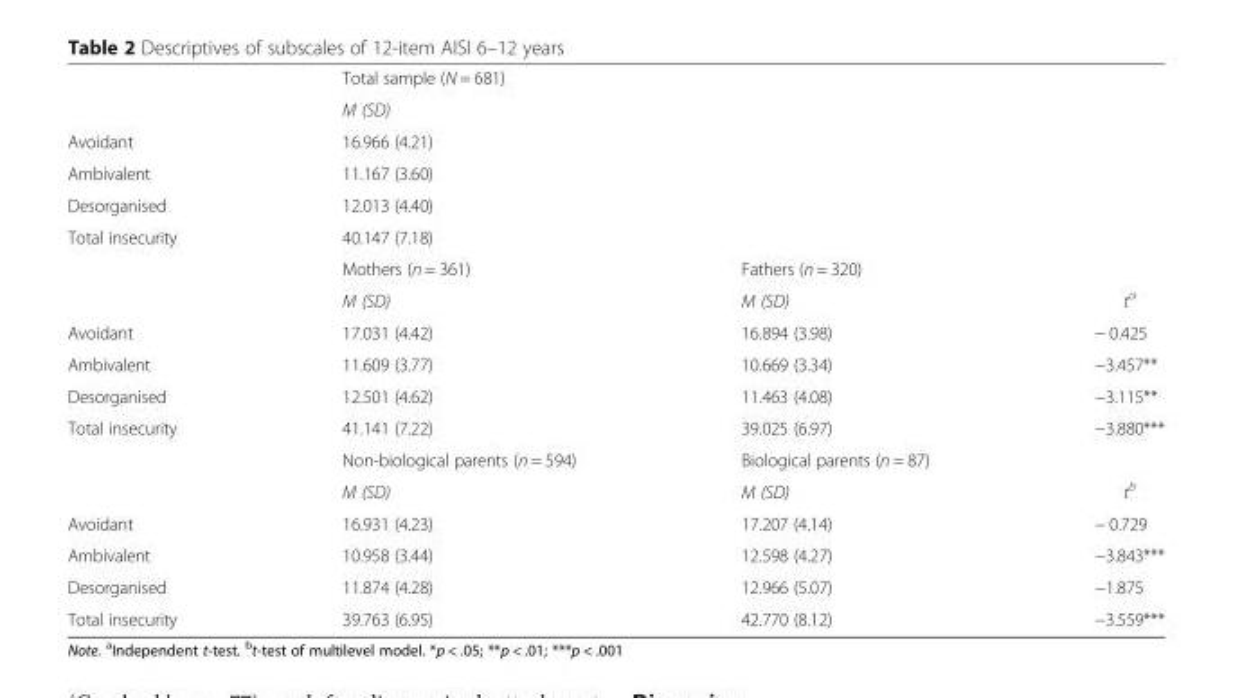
<table><thead><tr><td></td><td>Total sample (N = 681)</td><td></td><td></td></tr></thead><tbody><tr><td></td><td>M (SD)</td><td></td><td></td></tr><tr><td>Avoidant</td><td>16.966 (4.21)</td><td></td><td></td></tr><tr><td>Ambivalent</td><td>11.167 (3.60)</td><td></td><td></td></tr><tr><td>Desorganised</td><td>12.013 (4.40)</td><td></td><td></td></tr><tr><td rowspan="3">Total insecurity</td><td>40.147 (7.18)</td><td></td><td></td></tr><tr><td>Mothers (n = 361)</td><td>Fathers (n = 320)</td><td></td></tr><tr><td>M (SD)</td><td>M (SD)</td><td>t<sup>a</sup></td></tr><tr><td>Avoidant</td><td>17.031 (4.42)</td><td>16.894 (3.98)</td><td>− 0.425</td></tr><tr><td>Ambivalent</td><td>11.609 (3.77)</td><td>10.669 (3.34)</td><td>−3.457**</td></tr><tr><td>Desorganised</td><td>12.501 (4.62)</td><td>11.463 (4.08)</td><td>−3.115**</td></tr><tr><td rowspan="3">Total insecurity</td><td>41.141 (7.22)</td><td>39.025 (6.97)</td><td>−3.880***</td></tr><tr><td>Non-biological parents (n = 594)</td><td>Biological parents (n = 87)</td><td></td></tr><tr><td>M (SD)</td><td>M (SD)</td><td>t<sup>b</sup></td></tr><tr><td>Avoidant</td><td>16.931 (4.23)</td><td>17.207 (4.14)</td><td>− 0.729</td></tr><tr><td>Ambivalent</td><td>10.958 (3.44)</td><td>12.598 (4.27)</td><td>−3.843***</td></tr><tr><td>Desorganised</td><td>11.874 (4.28)</td><td>12.966 (5.07)</td><td>−1.875</td></tr><tr><td>Total insecurity</td><td>39.763 (6.95)</td><td>42.770 (8.12)</td><td>−3.559***</td></tr></tbody></table>